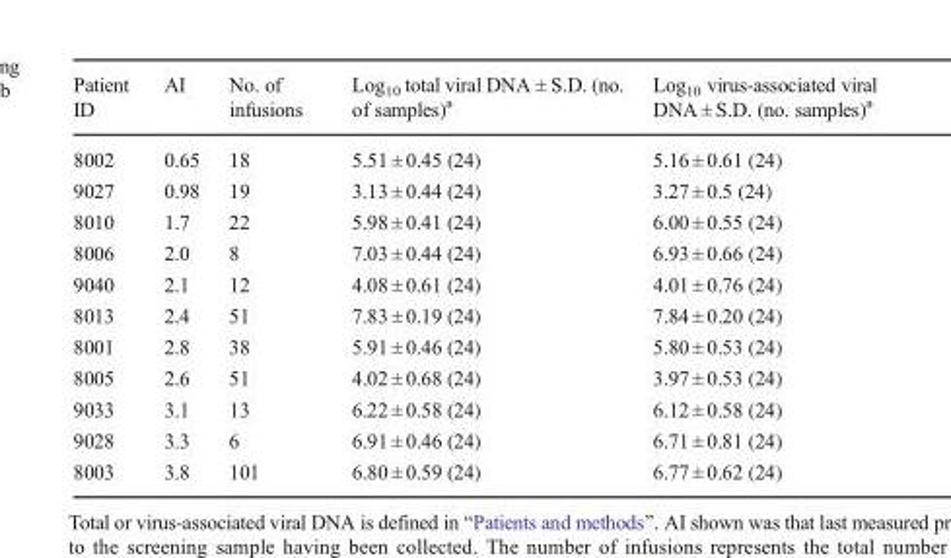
<table><thead><tr><td>Patient ID</td><td>AI</td><td>No. of infusions</td><td>Log<sub>10</sub> total viral DNA ± S.D. (no. of samples)<sup>a</sup></td><td>Log<sub>10</sub> virus-associated viral DNA ± S.D. (no. samples)<sup>a</sup></td></tr></thead><tbody><tr><td>8002</td><td>0.65</td><td>18</td><td>5.51 ± 0.45 (24)</td><td>5.16 ± 0.61 (24)</td></tr><tr><td>9027</td><td>0.98</td><td>19</td><td>3.13 ± 0.44 (24)</td><td>3.27 ± 0.5 (24)</td></tr><tr><td>8010</td><td>1.7</td><td>22</td><td>5.98 ± 0.41 (24)</td><td>6.00 ± 0.55 (24)</td></tr><tr><td>8006</td><td>2.0</td><td>8</td><td>7.03 ± 0.44 (24)</td><td>6.93 ± 0.66 (24)</td></tr><tr><td>9040</td><td>2.1</td><td>12</td><td>4.08 ± 0.61 (24)</td><td>4.01 ± 0.76 (24)</td></tr><tr><td>8013</td><td>2.4</td><td>51</td><td>7.83 ± 0.19 (24)</td><td>7.84 ± 0.20 (24)</td></tr><tr><td>8001</td><td>2.8</td><td>38</td><td>5.91 ± 0.46 (24)</td><td>5.80 ± 0.53 (24)</td></tr><tr><td>8005</td><td>2.6</td><td>51</td><td>4.02 ± 0.68 (24)</td><td>3.97 ± 0.53 (24)</td></tr><tr><td>9033</td><td>3.1</td><td>13</td><td>6.22 ± 0.58 (24)</td><td>6.12 ± 0.58 (24)</td></tr><tr><td>9028</td><td>3.3</td><td>6</td><td>6.91 ± 0.46 (24)</td><td>6.71 ± 0.81 (24)</td></tr><tr><td>8003</td><td>3.8</td><td>101</td><td>6.80 ± 0.59 (24)</td><td>6.77 ± 0.62 (24)</td></tr></tbody></table>